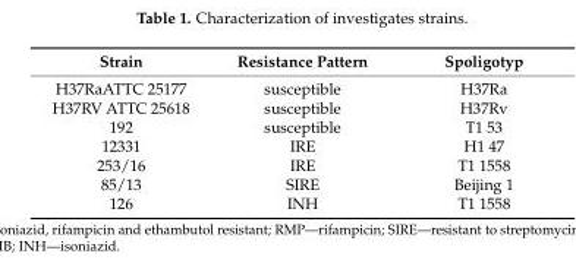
<table><thead><tr><td>Strain</td><td>Resistance Pattern</td><td>Spoligotyp</td></tr></thead><tbody><tr><td>H37RaATTC 25177</td><td>susceptible</td><td>H37Ra</td></tr><tr><td>H37RV ATTC 25618</td><td>susceptible</td><td>H37Rv</td></tr><tr><td>192</td><td>susceptible</td><td>T1 53</td></tr><tr><td>12331</td><td>IRE</td><td>H1 47</td></tr><tr><td>253/16</td><td>IRE</td><td>T1 1558</td></tr><tr><td>85/13</td><td>SIRE</td><td>Beijing 1</td></tr><tr><td>126</td><td>INH</td><td>T1 1558</td></tr></tbody></table>